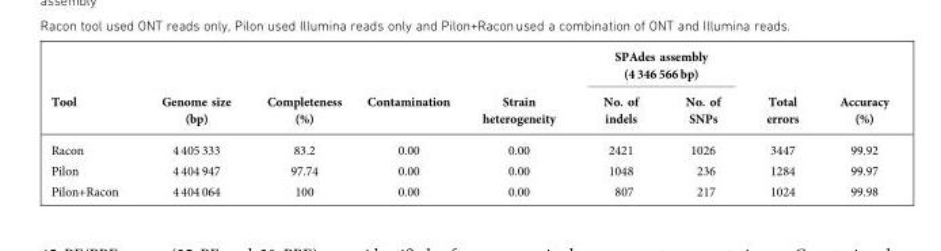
<table><thead><tr><td rowspan="2">Tool</td><td rowspan="2">Genome size (bp)</td><td rowspan="2">Completeness (%)</td><td rowspan="2">Contamination</td><td rowspan="2">Strain heterogeneity</td><td colspan="2">SPAdes assembly (4 346 566 bp)</td><td rowspan="2">Total errors</td><td rowspan="2">Accuracy (%)</td></tr><tr><td>No. of indels</td><td>No. of SNPs</td></tr></thead><tbody><tr><td>Racon</td><td>4 405 333</td><td>83.2</td><td>0.00</td><td>0.00</td><td>2421</td><td>1026</td><td>3447</td><td>99.92</td></tr><tr><td>Pilon</td><td>4 404 947</td><td>97.74</td><td>0.00</td><td>0.00</td><td>1048</td><td>236</td><td>1284</td><td>99.97</td></tr><tr><td>Pilon+Racon</td><td>4 404 064</td><td>100</td><td>0.00</td><td>0.00</td><td>807</td><td>217</td><td>1024</td><td>99.98</td></tr></tbody></table>